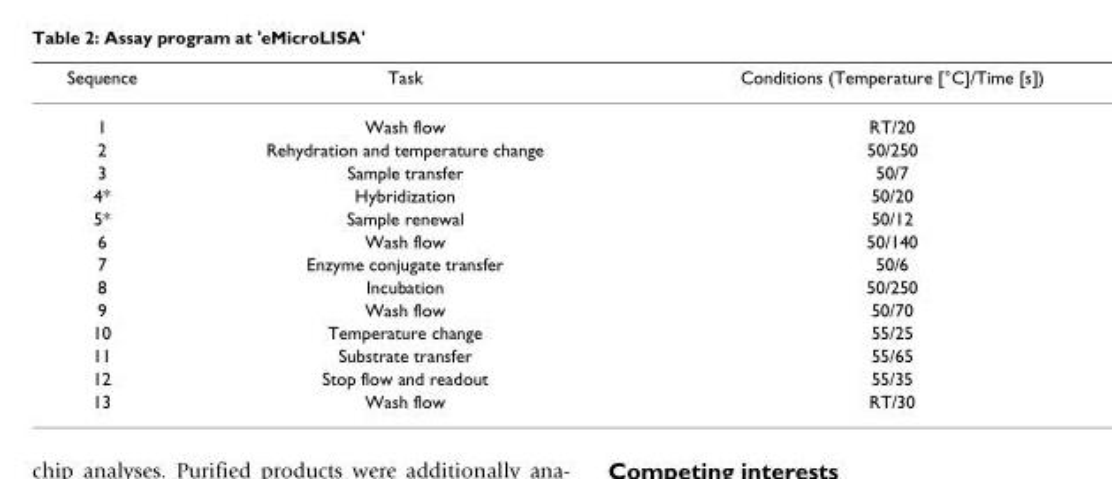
<table><thead><tr><td>Sequence</td><td>Task</td><td>Conditions (Temperature [°C]/Time [s])</td></tr></thead><tbody><tr><td>1</td><td>Wash flow</td><td>RT/20</td></tr><tr><td>2</td><td>Rehydration and temperature change</td><td>50/250</td></tr><tr><td>3</td><td>Sample transfer</td><td>50/7</td></tr><tr><td>4*</td><td>Hybridization</td><td>50/20</td></tr><tr><td>5*</td><td>Sample renewal</td><td>50/12</td></tr><tr><td>6</td><td>Wash flow</td><td>50/140</td></tr><tr><td>7</td><td>Enzyme conjugate transfer</td><td>50/6</td></tr><tr><td>8</td><td>Incubation</td><td>50/250</td></tr><tr><td>9</td><td>Wash flow</td><td>50/70</td></tr><tr><td>10</td><td>Temperature change</td><td>55/25</td></tr><tr><td>11</td><td>Substrate transfer</td><td>55/65</td></tr><tr><td>12</td><td>Stop flow and readout</td><td>55/35</td></tr><tr><td>13</td><td>Wash flow</td><td>RT/30</td></tr></tbody></table>